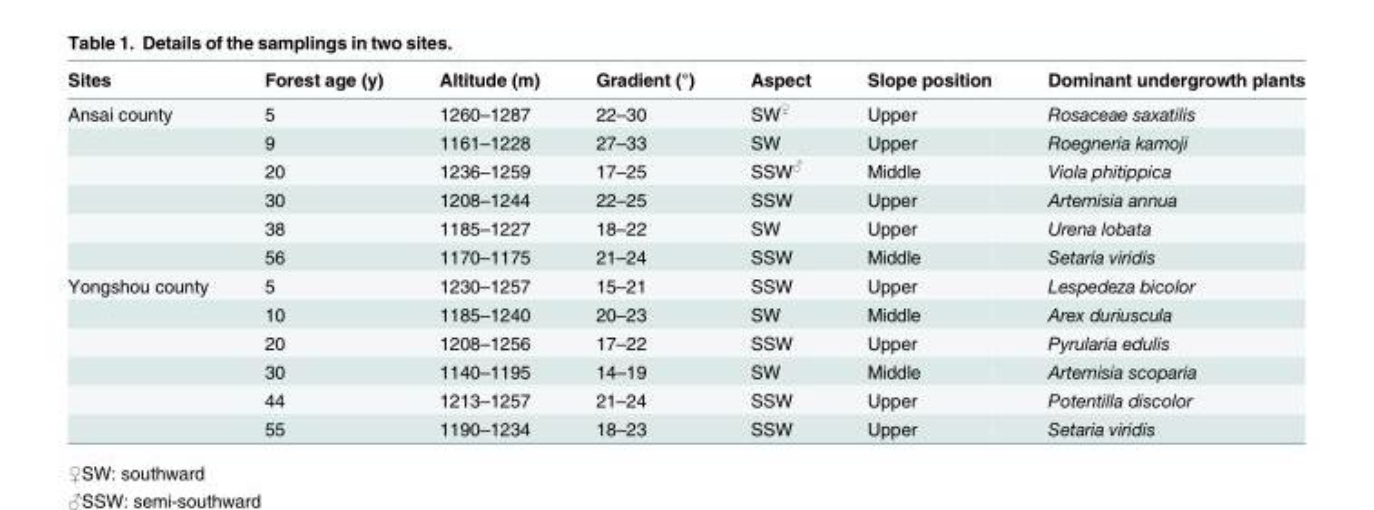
<table><thead><tr><td>Sites</td><td>Forest age (y)</td><td>Altitude (m)</td><td>Gradient (°)</td><td>Aspect</td><td>Slope position</td><td>Dominant undergrowth plants</td></tr></thead><tbody><tr><td rowspan="6">Ansai county</td><td>5</td><td>1260–1287</td><td>22–30</td><td>SW<sup>♀</sup></td><td>Upper</td><td>Rosaceae saxatilis</td></tr><tr><td>9</td><td>1161–1228</td><td>27–33</td><td>SW</td><td>Upper</td><td>Roegneria kamoji</td></tr><tr><td>20</td><td>1236–1259</td><td>17–25</td><td>SSW<sup>♂</sup></td><td>Middle</td><td>Viola phitippica</td></tr><tr><td>30</td><td>1208–1244</td><td>22–25</td><td>SSW</td><td>Upper</td><td>Artemisia annua</td></tr><tr><td>38</td><td>1185–1227</td><td>18–22</td><td>SW</td><td>Upper</td><td>Urena lobata</td></tr><tr><td>56</td><td>1170–1175</td><td>21–24</td><td>SSW</td><td>Middle</td><td>Setaria viridis</td></tr><tr><td rowspan="6">Yongshou county</td><td>5</td><td>1230–1257</td><td>15–21</td><td>SSW</td><td>Upper</td><td>Lespedeza bicolor</td></tr><tr><td>10</td><td>1185–1240</td><td>20–23</td><td>SW</td><td>Middle</td><td>Arex duriuscula</td></tr><tr><td>20</td><td>1208–1256</td><td>17–22</td><td>SSW</td><td>Upper</td><td>Pyrularia edulis</td></tr><tr><td>30</td><td>1140–1195</td><td>14–19</td><td>SW</td><td>Middle</td><td>Artemisia scoparia</td></tr><tr><td>44</td><td>1213–1257</td><td>21–24</td><td>SSW</td><td>Upper</td><td>Potentilla discolor</td></tr><tr><td>55</td><td>1190–1234</td><td>18–23</td><td>SSW</td><td>Upper</td><td>Setaria viridis</td></tr></tbody></table>